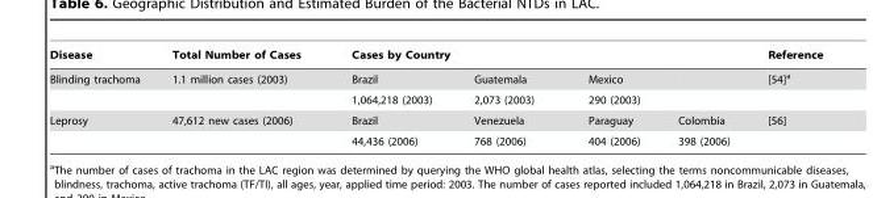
<table><thead><tr><td rowspan="2">Disease Blinding trachoma</td><td rowspan="2">Total Number of Cases 1.1 million cases (2003)</td><td colspan="4">Cases by Country</td><td rowspan="2">Reference [54]a</td></tr><tr><td>Brazil</td><td>Guatemala</td><td>Mexico</td><td></td></tr></thead><tbody><tr><td></td><td></td><td>1,064,218 (2003)</td><td>2,073 (2003)</td><td>290 (2003)</td><td></td><td></td></tr><tr><td rowspan="2">Leprosy</td><td>47,612 new cases (2006)</td><td>Brazil</td><td>Venezuela</td><td>Paraguay</td><td>Colombia</td><td>[56]</td></tr><tr><td></td><td>44,436 (2006)</td><td>768 (2006)</td><td>404 (2006)</td><td>398 (2006)</td><td></td></tr></tbody></table>